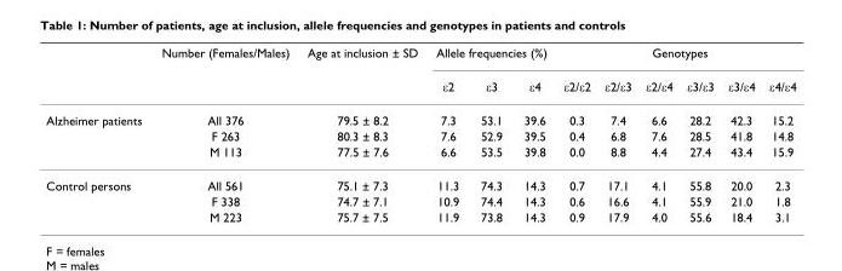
<table><thead><tr><td rowspan="2"></td><td rowspan="2">Number (Females/Males)</td><td rowspan="2">Age at inclusion ± SD</td><td colspan="3">Allele frequencies (%)</td><td colspan="6">Genotypes</td></tr><tr><td>ε2</td><td>ε3</td><td>ε4</td><td>ε2/ε2</td><td>ε2/ε3</td><td>ε2/ε4</td><td>ε3/ε3</td><td>ε3/ε4</td><td>ε4/ε4</td></tr></thead><tbody><tr><td rowspan="3">Alzheimer patients</td><td>All 376</td><td>79.5 ± 8.2</td><td>7.3</td><td>53.1</td><td>39.6</td><td>0.3</td><td>7.4</td><td>6.6</td><td>28.2</td><td>42.3</td><td>15.2</td></tr><tr><td>F 263</td><td>80.3 ± 8.3</td><td>7.6</td><td>52.9</td><td>39.5</td><td>0.4</td><td>6.8</td><td>7.6</td><td>28.5</td><td>41.8</td><td>14.8</td></tr><tr><td>M 113</td><td>77.5 ± 7.6</td><td>6.6</td><td>53.5</td><td>39.8</td><td>0.0</td><td>8.8</td><td>4.4</td><td>27.4</td><td>43.4</td><td>15.9</td></tr><tr><td rowspan="3">Control persons</td><td>All 561</td><td>75.1 ± 7.3</td><td>11.3</td><td>74.3</td><td>14.3</td><td>0.7</td><td>17.1</td><td>4.1</td><td>55.8</td><td>20.0</td><td>2.3</td></tr><tr><td>F 338</td><td>74.7 ± 7.1</td><td>10.9</td><td>74.4</td><td>14.3</td><td>0.6</td><td>16.6</td><td>4.1</td><td>55.9</td><td>21.0</td><td>1.8</td></tr><tr><td>M 223</td><td>75.7 ± 7.5</td><td>11.9</td><td>73.8</td><td>14.3</td><td>0.9</td><td>17.9</td><td>4.0</td><td>55.6</td><td>18.4</td><td>3.1</td></tr></tbody></table>